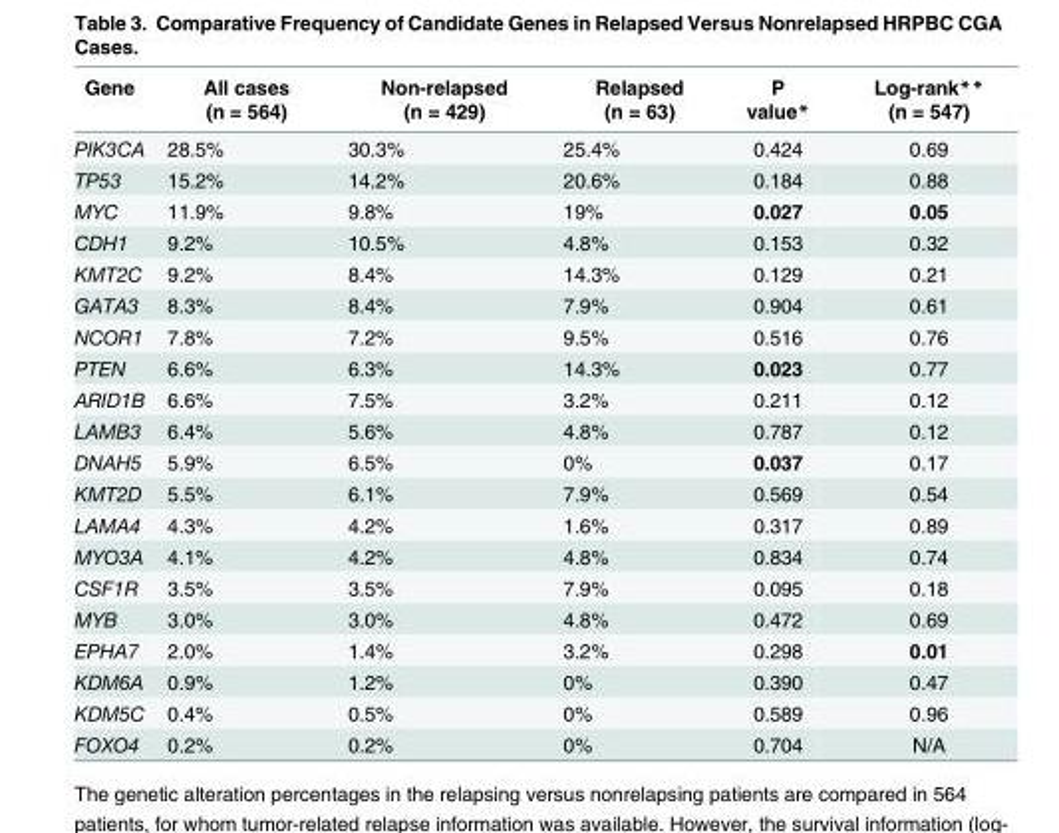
<table><thead><tr><td>Gene</td><td>All cases (n = 564)</td><td>Non-relapsed (n = 429)</td><td>Relapsed (n = 63)</td><td>P value*</td><td>Log-rank** (n = 547)</td></tr></thead><tbody><tr><td>PIK3CA</td><td>28.5%</td><td>30.3%</td><td>25.4%</td><td>0.424</td><td>0.69</td></tr><tr><td>TP53</td><td>15.2%</td><td>14.2%</td><td>20.6%</td><td>0.184</td><td>0.88</td></tr><tr><td>MYC</td><td>11.9%</td><td>9.8%</td><td>19%</td><td>0.027</td><td>0.05</td></tr><tr><td>CDH1</td><td>9.2%</td><td>10.5%</td><td>4.8%</td><td>0.153</td><td>0.32</td></tr><tr><td>KMT2C</td><td>9.2%</td><td>8.4%</td><td>14.3%</td><td>0.129</td><td>0.21</td></tr><tr><td>GATA3</td><td>8.3%</td><td>8.4%</td><td>7.9%</td><td>0.904</td><td>0.61</td></tr><tr><td>NCOR1</td><td>7.8%</td><td>7.2%</td><td>9.5%</td><td>0.516</td><td>0.76</td></tr><tr><td>PTEN</td><td>6.6%</td><td>6.3%</td><td>14.3%</td><td>0.023</td><td>0.77</td></tr><tr><td>ARID1B</td><td>6.6%</td><td>7.5%</td><td>3.2%</td><td>0.211</td><td>0.12</td></tr><tr><td>LAMB3</td><td>6.4%</td><td>5.6%</td><td>4.8%</td><td>0.787</td><td>0.12</td></tr><tr><td>DNAH5</td><td>5.9%</td><td>6.5%</td><td>0%</td><td>0.037</td><td>0.17</td></tr><tr><td>KMT2D</td><td>5.5%</td><td>6.1%</td><td>7.9%</td><td>0.569</td><td>0.54</td></tr><tr><td>LAMA4</td><td>4.3%</td><td>4.2%</td><td>1.6%</td><td>0.317</td><td>0.89</td></tr><tr><td>MYO3A</td><td>4.1%</td><td>4.2%</td><td>4.8%</td><td>0.834</td><td>0.74</td></tr><tr><td>CSF1R</td><td>3.5%</td><td>3.5%</td><td>7.9%</td><td>0.095</td><td>0.18</td></tr><tr><td>MYB</td><td>3.0%</td><td>3.0%</td><td>4.8%</td><td>0.472</td><td>0.69</td></tr><tr><td>EPHA7</td><td>2.0%</td><td>1.4%</td><td>3.2%</td><td>0.298</td><td>0.01</td></tr><tr><td>KDM6A</td><td>0.9%</td><td>1.2%</td><td>0%</td><td>0.390</td><td>0.47</td></tr><tr><td>KDM5C</td><td>0.4%</td><td>0.5%</td><td>0%</td><td>0.589</td><td>0.96</td></tr><tr><td>FOXO4</td><td>0.2%</td><td>0.2%</td><td>0%</td><td>0.704</td><td>N/A</td></tr></tbody></table>